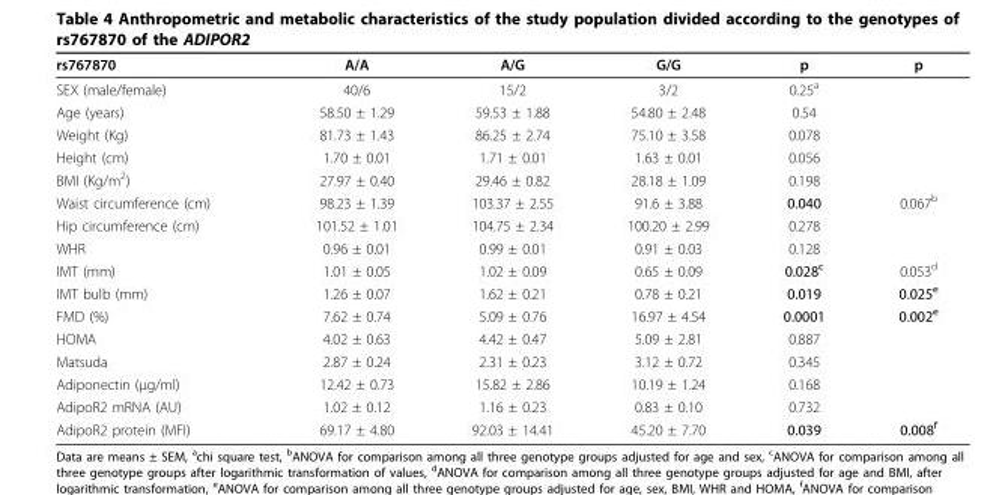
<table><thead><tr><td>rs767870</td><td>A/A</td><td>A/G</td><td>G/G</td><td>p</td><td>p</td></tr></thead><tbody><tr><td>SEX (male/female)</td><td>40/6</td><td>15/2</td><td>3/2</td><td>0.25<sup>a</sup></td><td></td></tr><tr><td>Age (years)</td><td>58.50 ± 1.29</td><td>59.53 ± 1.88</td><td>54.80 ± 2.48</td><td>0.54</td><td></td></tr><tr><td>Weight (Kg)</td><td>81.73 ± 1.43</td><td>86.25 ± 2.74</td><td>75.10 ± 3.58</td><td>0.078</td><td></td></tr><tr><td>Height (cm)</td><td>1.70 ± 0.01</td><td>1.71 ± 0.01</td><td>1.63 ± 0.01</td><td>0.056</td><td></td></tr><tr><td>BMI (Kg/m<sup>2</sup>)</td><td>27.97 ± 0.40</td><td>29.46 ± 0.82</td><td>28.18 ± 1.09</td><td>0.198</td><td></td></tr><tr><td>Waist circumference (cm)</td><td>98.23 ± 1.39</td><td>103.37 ± 2.55</td><td>91.6 ± 3.88</td><td>0.040</td><td>0.067<sup>b</sup></td></tr><tr><td>Hip circumference (cm)</td><td>101.52 ± 1.01</td><td>104.75 ± 2.34</td><td>100.20 ± 2.99</td><td>0.278</td><td></td></tr><tr><td>WHR</td><td>0.96 ± 0.01</td><td>0.99 ± 0.01</td><td>0.91 ± 0.03</td><td>0.128</td><td></td></tr><tr><td>IMT (mm)</td><td>1.01 ± 0.05</td><td>1.02 ± 0.09</td><td>0.65 ± 0.09</td><td>0.028<sup>c</sup></td><td>0.053<sup>d</sup></td></tr><tr><td>IMT bulb (mm)</td><td>1.26 ± 0.07</td><td>1.62 ± 0.21</td><td>0.78 ± 0.21</td><td>0.019</td><td>0.025<sup>e</sup></td></tr><tr><td>FMD (%)</td><td>7.62 ± 0.74</td><td>5.09 ± 0.76</td><td>16.97 ± 4.54</td><td>0.0001</td><td>0.002<sup>e</sup></td></tr><tr><td>HOMA</td><td>4.02 ± 0.63</td><td>4.42 ± 0.47</td><td>5.09 ± 2.81</td><td>0.887</td><td></td></tr><tr><td>Matsuda</td><td>2.87 ± 0.24</td><td>2.31 ± 0.23</td><td>3.12 ± 0.72</td><td>0.345</td><td></td></tr><tr><td>Adiponectin (μg/ml)</td><td>12.42 ± 0.73</td><td>15.82 ± 2.86</td><td>10.19 ± 1.24</td><td>0.168</td><td></td></tr><tr><td>AdipoR2 mRNA (AU)</td><td>1.02 ± 0.12</td><td>1.16 ± 0.23</td><td>0.83 ± 0.10</td><td>0.732</td><td></td></tr><tr><td>AdipoR2 protein (MFI)</td><td>69.17 ± 4.80</td><td>92.03 ± 14.41</td><td>45.20 ± 7.70</td><td>0.039</td><td>0.008<sup>f</sup></td></tr></tbody></table>